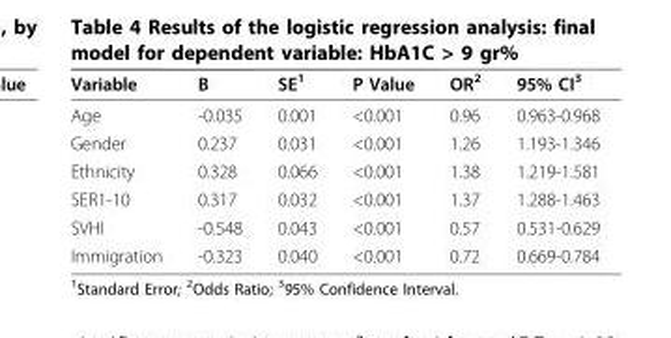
<table><thead><tr><td>Variable</td><td>B</td><td>SE<sup>1</sup></td><td>P Value</td><td>OR<sup>2</sup></td><td>95% CI<sup>3</sup></td></tr></thead><tbody><tr><td>Age</td><td>-0.035</td><td>0.001</td><td>&lt;0.001</td><td>0.96</td><td>0.963-0.968</td></tr><tr><td>Gender</td><td>0.237</td><td>0.031</td><td>&lt;0.001</td><td>1.26</td><td>1.193-1.346</td></tr><tr><td>Ethnicity</td><td>0.328</td><td>0.066</td><td>&lt;0.001</td><td>1.38</td><td>1.219-1.581</td></tr><tr><td>SER1-10</td><td>0.317</td><td>0.032</td><td>&lt;0.001</td><td>1.37</td><td>1.288-1.463</td></tr><tr><td>SVHI</td><td>-0.548</td><td>0.043</td><td>&lt;0.001</td><td>0.57</td><td>0.531-0.629</td></tr><tr><td>Immigration</td><td>-0.323</td><td>0.040</td><td>&lt;0.001</td><td>0.72</td><td>0.669-0.784</td></tr></tbody></table>